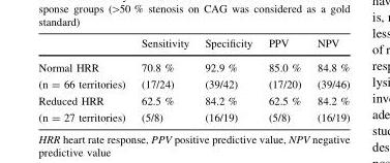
<table><thead><tr><td></td><td>Sensitivity</td><td>Specificity</td><td>PPV</td><td>NPV</td></tr></thead><tbody><tr><td>Normal HRR (n = 66 territories)</td><td>70.8 % (17/24)</td><td>92.9 % (39/42)</td><td>85.0 % (17/20)</td><td>84.8 % (39/46)</td></tr><tr><td>Reduced HRR (n = 27 territories)</td><td>62.5 % (5/8)</td><td>84.2 % (16/19)</td><td>62.5 % (5/8)</td><td>84.2 % (16/19)</td></tr></tbody></table>